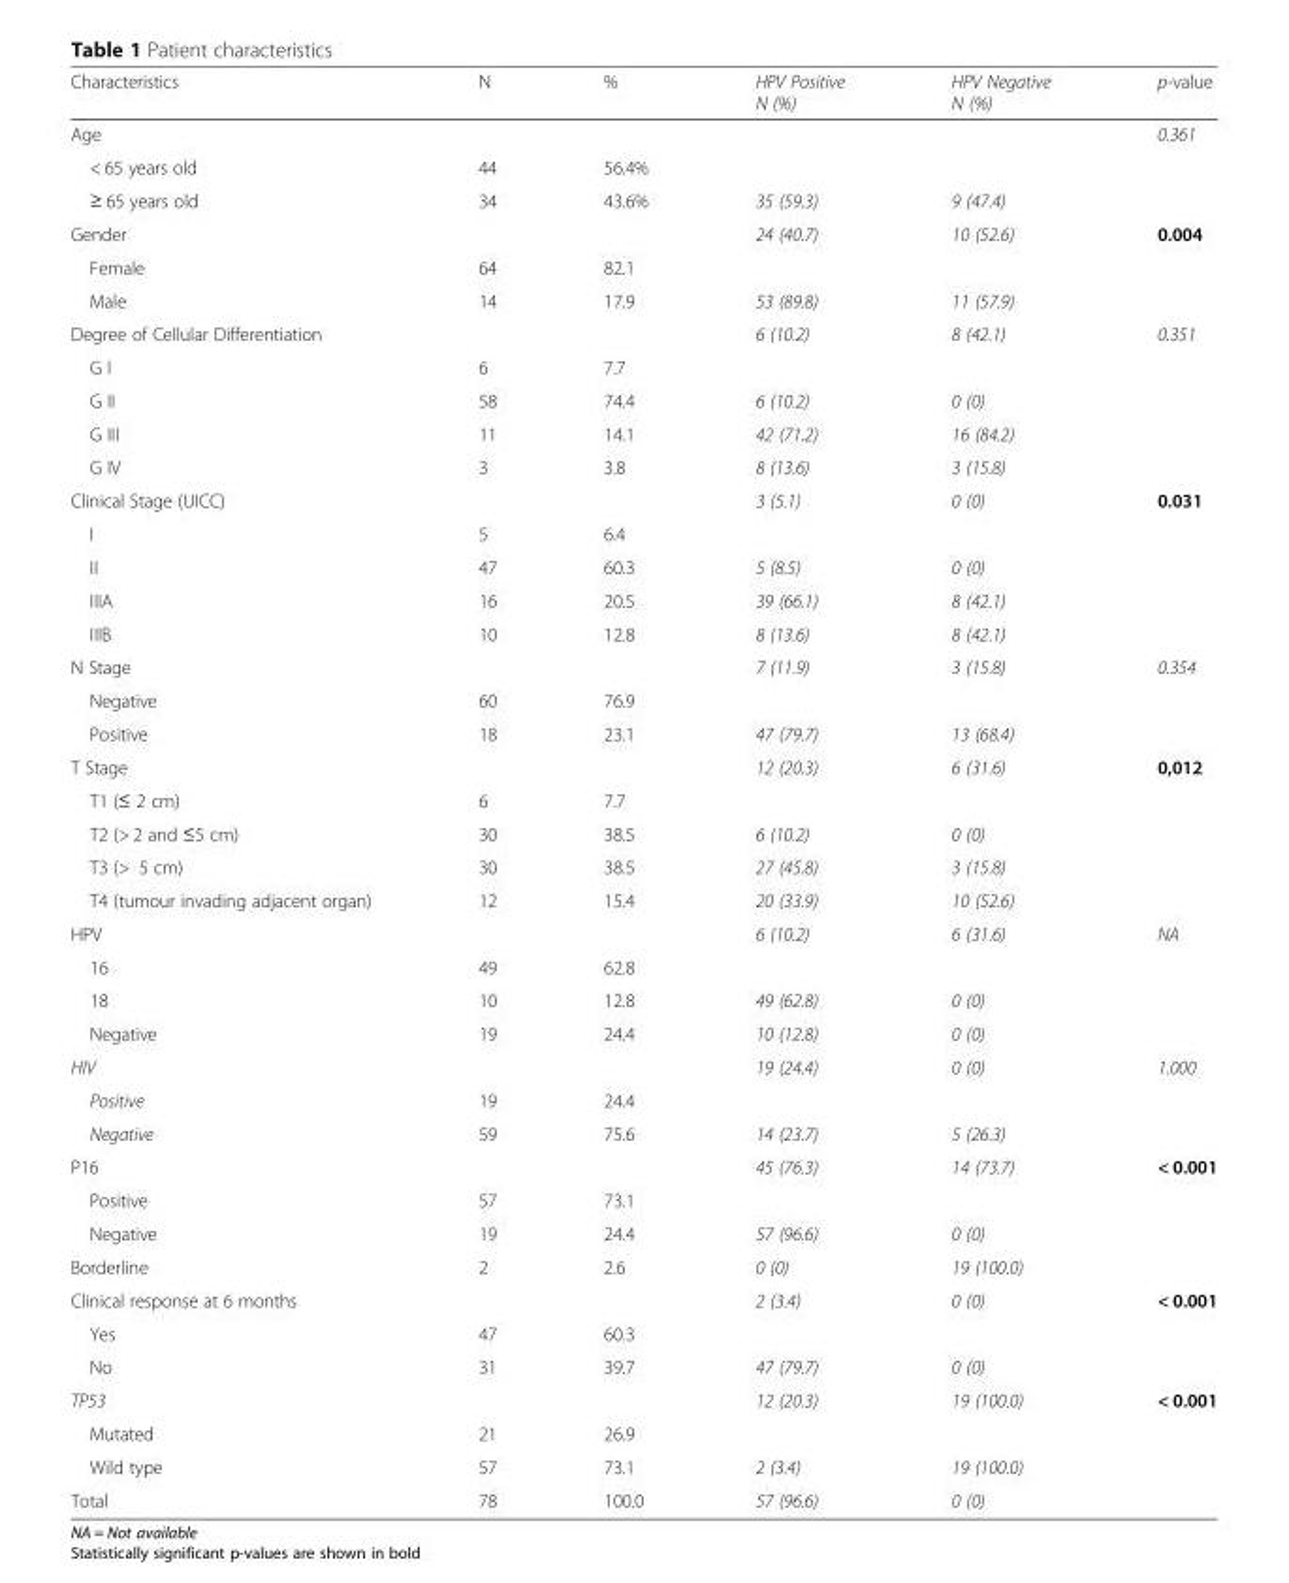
<table><thead><tr><td>Characteristics</td><td>N</td><td>%</td><td>HPV Positive N (%)</td><td>HPV Negative N (%)</td><td>p-value</td></tr></thead><tbody><tr><td>Age</td><td></td><td></td><td></td><td></td><td>0.361</td></tr><tr><td>&lt; 65 years old</td><td>44</td><td>56.4%</td><td></td><td></td><td></td></tr><tr><td>≥ 65 years old</td><td>34</td><td>43.6%</td><td>35 (59.3)</td><td>9 (47.4)</td><td></td></tr><tr><td>Gender</td><td></td><td></td><td>24 (40.7)</td><td>10 (52.6)</td><td>0.004</td></tr><tr><td>Female</td><td>64</td><td>82.1</td><td></td><td></td><td></td></tr><tr><td>Male</td><td>14</td><td>17.9</td><td>53 (89.8)</td><td>11 (57.9)</td><td></td></tr><tr><td>Degree of Cellular Differentiation</td><td></td><td></td><td>6 (10.2)</td><td>8 (42.1)</td><td>0.351</td></tr><tr><td>G I</td><td>6</td><td>7.7</td><td></td><td></td><td></td></tr><tr><td>G II</td><td>58</td><td>74.4</td><td>6 (10.2)</td><td>0 (0)</td><td></td></tr><tr><td>G III</td><td>11</td><td>14.1</td><td>42 (71.2)</td><td>16 (84.2)</td><td></td></tr><tr><td>G IV</td><td>3</td><td>3.8</td><td>8 (13.6)</td><td>3 (15.8)</td><td></td></tr><tr><td>Clinical Stage (UICC)</td><td></td><td></td><td>3 (5.1)</td><td>0 (0)</td><td>0.031</td></tr><tr><td>I</td><td>5</td><td>6.4</td><td></td><td></td><td></td></tr><tr><td>II</td><td>47</td><td>60.3</td><td>5 (8.5)</td><td>0 (0)</td><td></td></tr><tr><td>IIIA</td><td>16</td><td>20.5</td><td>39 (66.1)</td><td>8 (42.1)</td><td></td></tr><tr><td>IIIB</td><td>10</td><td>12.8</td><td>8 (13.6)</td><td>8 (42.1)</td><td></td></tr><tr><td>N Stage</td><td></td><td></td><td>7 (11.9)</td><td>3 (15.8)</td><td>0.354</td></tr><tr><td>Negative</td><td>60</td><td>76.9</td><td></td><td></td><td></td></tr><tr><td>Positive</td><td>18</td><td>23.1</td><td>47 (79.7)</td><td>13 (68.4)</td><td></td></tr><tr><td>T Stage</td><td></td><td></td><td>12 (20.3)</td><td>6 (31.6)</td><td>0,012</td></tr><tr><td>T1 (≤ 2 cm)</td><td>6</td><td>7.7</td><td></td><td></td><td></td></tr><tr><td>T2 (&gt; 2 and ≤5 cm)</td><td>30</td><td>38.5</td><td>6 (10.2)</td><td>0 (0)</td><td></td></tr><tr><td>T3 (&gt; 5 cm)</td><td>30</td><td>38.5</td><td>27 (45.8)</td><td>3 (15.8)</td><td></td></tr><tr><td>T4 (tumour invading adjacent organ)</td><td>12</td><td>15.4</td><td>20 (33.9)</td><td>10 (52.6)</td><td></td></tr><tr><td>HPV</td><td></td><td></td><td>6 (10.2)</td><td>6 (31.6)</td><td>NA</td></tr><tr><td>16</td><td>49</td><td>62.8</td><td></td><td></td><td></td></tr><tr><td>18</td><td>10</td><td>12.8</td><td>49 (62.8)</td><td>0 (0)</td><td></td></tr><tr><td>Negative</td><td>19</td><td>24.4</td><td>10 (12.8)</td><td>0 (0)</td><td></td></tr><tr><td>HIV</td><td></td><td></td><td>19 (24.4)</td><td>0 (0)</td><td>1.000</td></tr><tr><td>Positive</td><td>19</td><td>24.4</td><td></td><td></td><td></td></tr><tr><td>Negative</td><td>59</td><td>75.6</td><td>14 (23.7)</td><td>5 (26.3)</td><td></td></tr><tr><td>P16</td><td></td><td></td><td>45 (76.3)</td><td>14 (73.7)</td><td>&lt; 0.001</td></tr><tr><td>Positive</td><td>57</td><td>73.1</td><td></td><td></td><td></td></tr><tr><td>Negative</td><td>19</td><td>24.4</td><td>57 (96.6)</td><td>0 (0)</td><td></td></tr><tr><td>Borderline</td><td>2</td><td>2.6</td><td>0 (0)</td><td>19 (100.0)</td><td></td></tr><tr><td>Clinical response at 6 months</td><td></td><td></td><td>2 (3.4)</td><td>0 (0)</td><td>&lt; 0.001</td></tr><tr><td>Yes</td><td>47</td><td>60.3</td><td></td><td></td><td></td></tr><tr><td>No</td><td>31</td><td>39.7</td><td>47 (79.7)</td><td>0 (0)</td><td></td></tr><tr><td>TP53</td><td></td><td></td><td>12 (20.3)</td><td>19 (100.0)</td><td>&lt; 0.001</td></tr><tr><td>Mutated</td><td>21</td><td>26.9</td><td></td><td></td><td></td></tr><tr><td>Wild type</td><td>57</td><td>73.1</td><td>2 (3.4)</td><td>19 (100.0)</td><td></td></tr><tr><td>Total</td><td>78</td><td>100.0</td><td>57 (96.6)</td><td>0 (0)</td><td></td></tr></tbody></table>